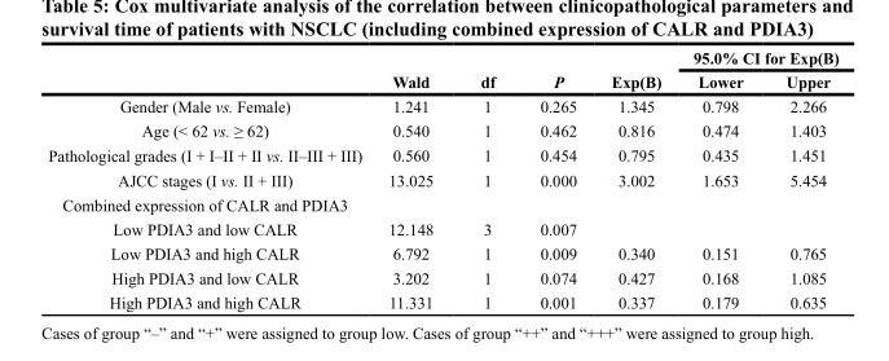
<table><thead><tr><td rowspan="2"></td><td rowspan="2">Wald</td><td rowspan="2">df</td><td rowspan="2">P</td><td rowspan="2">Exp(B)</td><td colspan="2">95.0% CI for Exp(B)</td></tr><tr><td>Lower</td><td>Upper</td></tr></thead><tbody><tr><td>Gender (Male vs. Female)</td><td>1.241</td><td>1</td><td>0.265</td><td>1.345</td><td>0.798</td><td>2.266</td></tr><tr><td>Age (&lt; 62 vs. ≥ 62)</td><td>0.540</td><td>1</td><td>0.462</td><td>0.816</td><td>0.474</td><td>1.403</td></tr><tr><td>Pathological grades (I + I–II + II vs. II–III + III)</td><td>0.560</td><td>1</td><td>0.454</td><td>0.795</td><td>0.435</td><td>1.451</td></tr><tr><td>AJCC stages (I vs. II + III)</td><td>13.025</td><td>1</td><td>0.000</td><td>3.002</td><td>1.653</td><td>5.454</td></tr><tr><td colspan="7">Combined expression of CALR and PDIA3</td></tr><tr><td>Low PDIA3 and low CALR</td><td>12.148</td><td>3</td><td>0.007</td><td></td><td></td><td></td></tr><tr><td>Low PDIA3 and high CALR</td><td>6.792</td><td>1</td><td>0.009</td><td>0.340</td><td>0.151</td><td>0.765</td></tr><tr><td>High PDIA3 and low CALR</td><td>3.202</td><td>1</td><td>0.074</td><td>0.427</td><td>0.168</td><td>1.085</td></tr><tr><td>High PDIA3 and high CALR</td><td>11.331</td><td>1</td><td>0.001</td><td>0.337</td><td>0.179</td><td>0.635</td></tr></tbody></table>